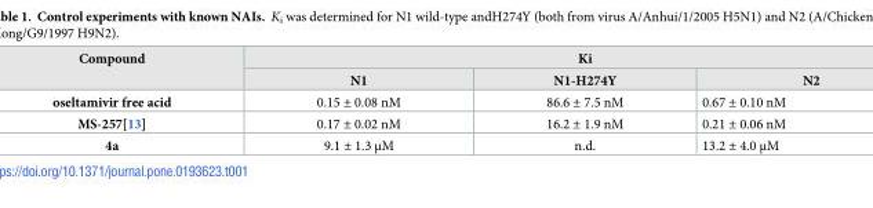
<table><thead><tr><td rowspan="2">Compound</td><td colspan="3">Ki</td></tr><tr><td>N1</td><td>N1-H274Y</td><td>N2</td></tr></thead><tbody><tr><td>oseltamivir free acid</td><td>0.15 ± 0.08 nM</td><td>86.6 ± 7.5 nM</td><td>0.67 ± 0.10 nM</td></tr><tr><td>MS-257[13]</td><td>0.17 ± 0.02 nM</td><td>16.2 ± 1.9 nM</td><td>0.21 ± 0.06 nM</td></tr><tr><td>4a</td><td>9.1 ± 1.3 μM</td><td>n.d.</td><td>13.2 ± 4.0 μM</td></tr></tbody></table>